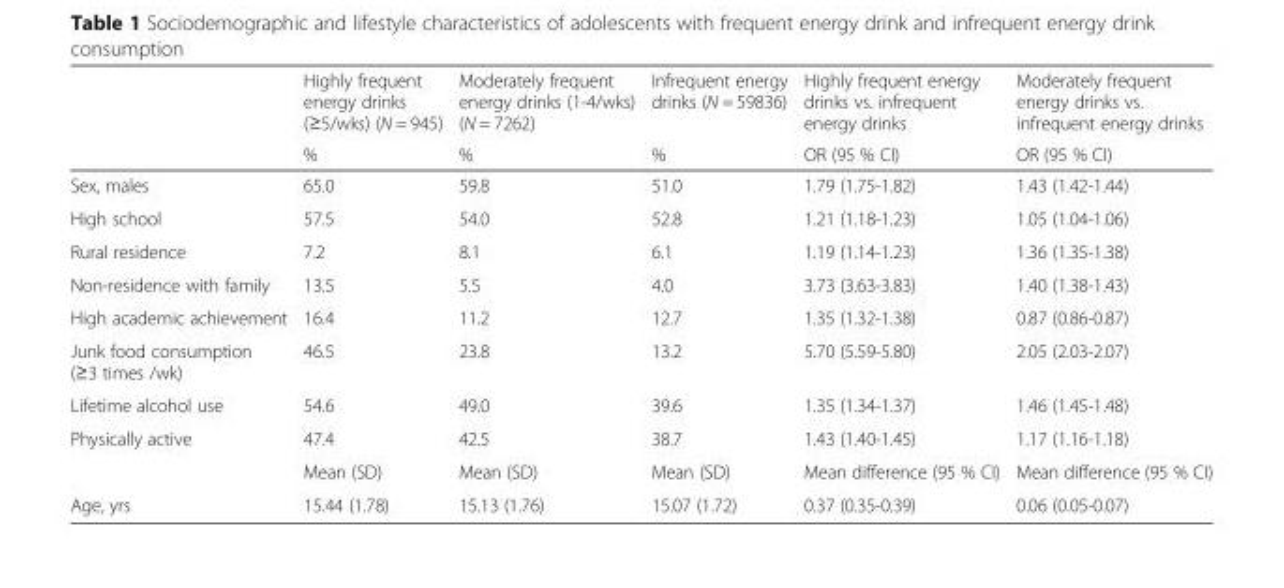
<table><thead><tr><td rowspan="2"></td><td rowspan="2">Highly frequent energy drinks (≥5/wks) (N = 945) %</td><td rowspan="2">Moderately frequent energy drinks (1-4/wks) (N = 7262) %</td><td rowspan="2">Infrequent energy drinks (N = 59836) %</td><td rowspan="2">Highly frequent energy drinks vs. infrequent energy drinks OR (95 % CI)</td><td rowspan="2">Moderately frequent energy drinks vs. infrequent energy drinks OR (95 % CI)</td></tr><tr></tr></thead><tbody><tr><td>Sex, males</td><td>65.0</td><td>59.8</td><td>51.0</td><td>1.79 (1.75-1.82)</td><td>1.43 (1.42-1.44)</td></tr><tr><td>High school</td><td>57.5</td><td>54.0</td><td>52.8</td><td>1.21 (1.18-1.23)</td><td>1.05 (1.04-1.06)</td></tr><tr><td>Rural residence</td><td>7.2</td><td>8.1</td><td>6.1</td><td>1.19 (1.14-1.23)</td><td>1.36 (1.35-1.38)</td></tr><tr><td>Non-residence with family</td><td>13.5</td><td>5.5</td><td>4.0</td><td>3.73 (3.63-3.83)</td><td>1.40 (1.38-1.43)</td></tr><tr><td>High academic achievement</td><td>16.4</td><td>11.2</td><td>12.7</td><td>1.35 (1.32-1.38)</td><td>0.87 (0.86-0.87)</td></tr><tr><td>Junk food consumption (≥3 times /wk)</td><td>46.5</td><td>23.8</td><td>13.2</td><td>5.70 (5.59-5.80)</td><td>2.05 (2.03-2.07)</td></tr><tr><td>Lifetime alcohol use</td><td>54.6</td><td>49.0</td><td>39.6</td><td>1.35 (1.34-1.37)</td><td>1.46 (1.45-1.48)</td></tr><tr><td rowspan="2">Physically active</td><td>47.4</td><td>42.5</td><td>38.7</td><td>1.43 (1.40-1.45)</td><td>1.17 (1.16-1.18)</td></tr><tr><td>Mean (SD)</td><td>Mean (SD)</td><td>Mean (SD)</td><td>Mean difference (95 % CI)</td><td>Mean difference (95 % CI)</td></tr><tr><td>Age, yrs</td><td>15.44 (1.78)</td><td>15.13 (1.76)</td><td>15.07 (1.72)</td><td>0.37 (0.35-0.39)</td><td>0.06 (0.05-0.07)</td></tr></tbody></table>